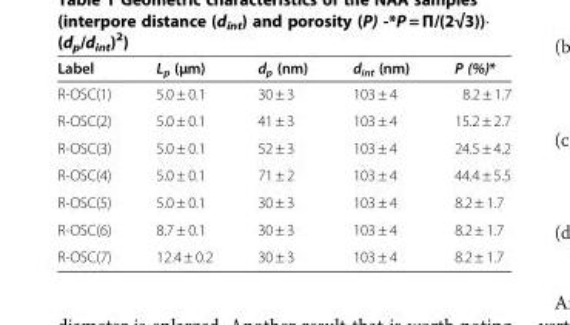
<table><thead><tr><td>Label</td><td>L<sub>p</sub> (μm)</td><td>d<sub>p</sub> (nm)</td><td>d<sub>int</sub> (nm)</td><td>P (%)*</td></tr></thead><tbody><tr><td>R-OSC(1)</td><td>5.0 ± 0.1</td><td>30 ± 3</td><td>103 ± 4</td><td>8.2 ± 1.7</td></tr><tr><td>R-OSC(2)</td><td>5.0 ± 0.1</td><td>41 ± 3</td><td>103 ± 4</td><td>15.2 ± 2.7</td></tr><tr><td>R-OSC(3)</td><td>5.0 ± 0.1</td><td>52 ± 3</td><td>103 ± 4</td><td>24.5 ± 4.2</td></tr><tr><td>R-OSC(4)</td><td>5.0 ± 0.1</td><td>71 ± 2</td><td>103 ± 4</td><td>44.4 ± 5.5</td></tr><tr><td>R-OSC(5)</td><td>5.0 ± 0.1</td><td>30 ± 3</td><td>103 ± 4</td><td>8.2 ± 1.7</td></tr><tr><td>R-OSC(6)</td><td>8.7 ± 0.1</td><td>30 ± 3</td><td>103 ± 4</td><td>8.2 ± 1.7</td></tr><tr><td>R-OSC(7)</td><td>12.4 ± 0.2</td><td>30 ± 3</td><td>103 ± 4</td><td>8.2 ± 1.7</td></tr></tbody></table>